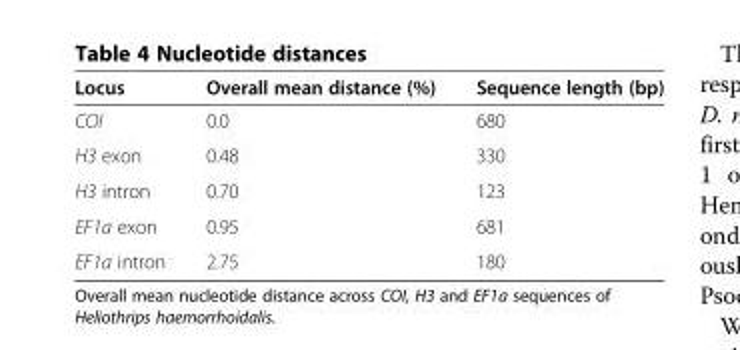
<table><thead><tr><td>Locus</td><td>Overall mean distance (%)</td><td>Sequence length (bp)</td></tr></thead><tbody><tr><td>COI</td><td>0.0</td><td>680</td></tr><tr><td>H3 exon</td><td>0.48</td><td>330</td></tr><tr><td>H3 intron</td><td>0.70</td><td>123</td></tr><tr><td>EF1a exon</td><td>0.95</td><td>681</td></tr><tr><td>EF1a intron</td><td>2.75</td><td>180</td></tr></tbody></table>